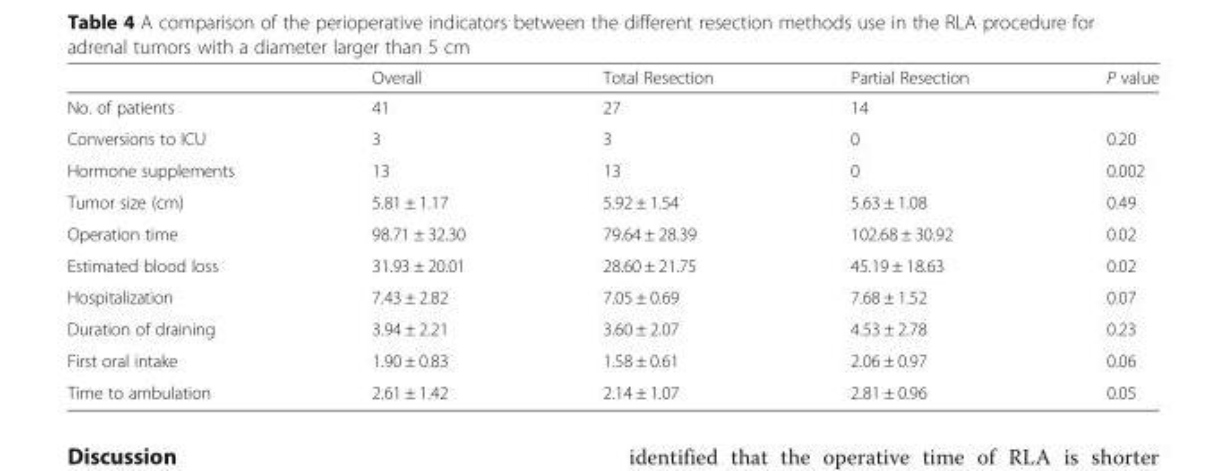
<table><thead><tr><td></td><td>Overall</td><td>Total Resection</td><td>Partial Resection</td><td>P value</td></tr></thead><tbody><tr><td>No. of patients</td><td>41</td><td>27</td><td>14</td><td></td></tr><tr><td>Conversions to ICU</td><td>3</td><td>3</td><td>0</td><td>0.20</td></tr><tr><td>Hormone supplements</td><td>13</td><td>13</td><td>0</td><td>0.002</td></tr><tr><td>Tumor size (cm)</td><td>5.81 ± 1.17</td><td>5.92 ± 1.54</td><td>5.63 ± 1.08</td><td>0.49</td></tr><tr><td>Operation time</td><td>98.71 ± 32.30</td><td>79.64 ± 28.39</td><td>102.68 ± 30.92</td><td>0.02</td></tr><tr><td>Estimated blood loss</td><td>31.93 ± 20.01</td><td>28.60 ± 21.75</td><td>45.19 ± 18.63</td><td>0.02</td></tr><tr><td>Hospitalization</td><td>7.43 ± 2.82</td><td>7.05 ± 0.69</td><td>7.68 ± 1.52</td><td>0.07</td></tr><tr><td>Duration of draining</td><td>3.94 ± 2.21</td><td>3.60 ± 2.07</td><td>4.53 ± 2.78</td><td>0.23</td></tr><tr><td>First oral intake</td><td>1.90 ± 0.83</td><td>1.58 ± 0.61</td><td>2.06 ± 0.97</td><td>0.06</td></tr><tr><td>Time to ambulation</td><td>2.61 ± 1.42</td><td>2.14 ± 1.07</td><td>2.81 ± 0.96</td><td>0.05</td></tr></tbody></table>